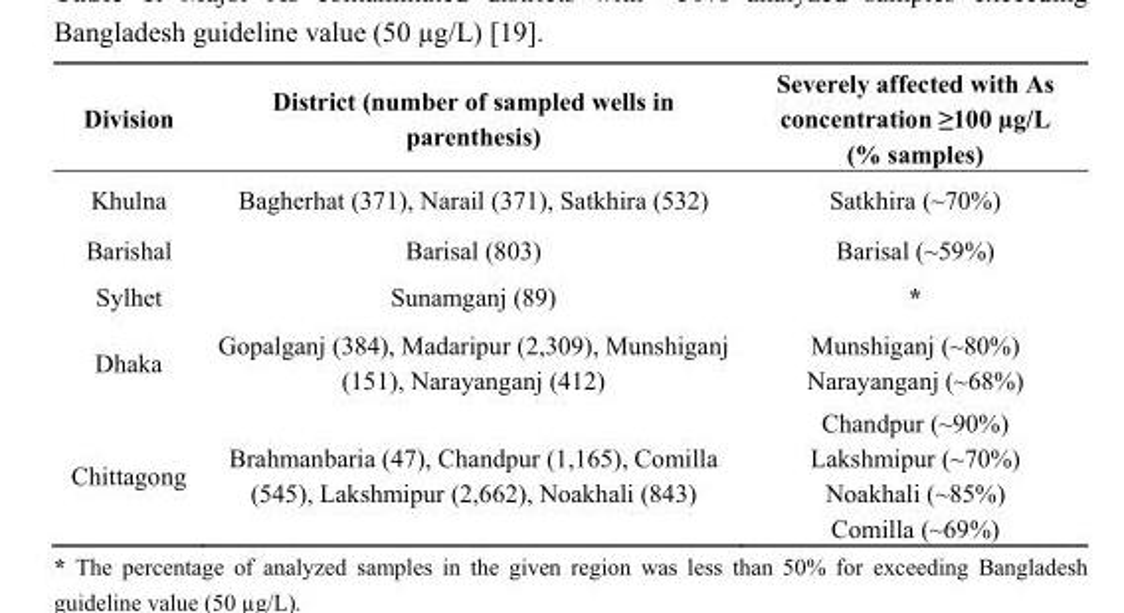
<table><thead><tr><td>Division</td><td>District (number of sampled wells in parenthesis)</td><td>Severely affected with As concentration ≥100 µg/L (% samples)</td></tr></thead><tbody><tr><td>Khulna</td><td>Bagherhat (371), Narail (371), Satkhira (532)</td><td>Satkhira (~70%)</td></tr><tr><td>Barishal</td><td>Barisal (803)</td><td>Barisal (~59%)</td></tr><tr><td>Sylhet</td><td>Sunamganj (89)</td><td>*</td></tr><tr><td rowspan="2">Dhaka</td><td rowspan="2">Gopalganj (384), Madaripur (2,309), Munshiganj (151), Narayanganj (412)</td><td>Munshiganj (~80%)</td></tr><tr><td>Narayanganj (~68%)</td></tr><tr><td rowspan="4">Chittagong</td><td rowspan="4">Brahmanbaria (47), Chandpur (1,165), Comilla (545), Lakshmipur (2,662), Noakhali (843)</td><td>Chandpur (~90%)</td></tr><tr><td>Lakshmipur (~70%)</td></tr><tr><td>Noakhali (~85%)</td></tr><tr><td>Comilla (~69%)</td></tr></tbody></table>